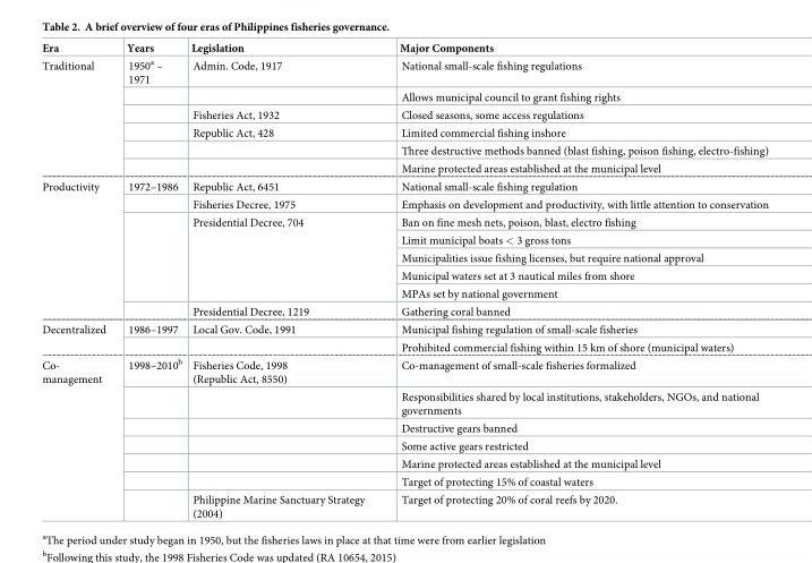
<table><thead><tr><td>Era</td><td>Years</td><td>Legislation</td><td>Major Components</td></tr></thead><tbody><tr><td rowspan="6">Traditional</td><td>1950<sup>a</sup> – 1971</td><td>Admin. Code, 1917</td><td>National small-scale fishing regulations</td></tr><tr><td></td><td></td><td>Allows municipal council to grant fishing rights</td></tr><tr><td></td><td>Fisheries Act, 1932</td><td>Closed seasons, some access regulations</td></tr><tr><td></td><td>Republic Act, 428</td><td>Limited commercial fishing inshore</td></tr><tr><td></td><td></td><td>Three destructive methods banned (blast fishing, poison fishing, electro-fishing)</td></tr><tr><td></td><td></td><td>Marine protected areas established at the municipal level</td></tr><tr><td rowspan="8">Productivity</td><td>1972–1986</td><td>Republic Act, 6451</td><td>National small-scale fishing regulation</td></tr><tr><td></td><td>Fisheries Decree, 1975</td><td>Emphasis on development and productivity, with little attention to conservation</td></tr><tr><td rowspan="5"></td><td rowspan="5">Presidential Decree, 704</td><td>Ban on fine mesh nets, poison, blast, electro fishing</td></tr><tr><td>Limit municipal boats &lt; 3 gross tons</td></tr><tr><td>Municipalities issue fishing licenses, but require national approval</td></tr><tr><td>Municipal waters set at 3 nautical miles from shore</td></tr><tr><td>MPAs set by national government</td></tr><tr><td></td><td>Presidential Decree, 1219</td><td>Gathering coral banned</td></tr><tr><td rowspan="2">Decentralized</td><td>1986–1997</td><td>Local Gov. Code, 1991</td><td>Municipal fishing regulation of small-scale fisheries</td></tr><tr><td></td><td></td><td>Prohibited commercial fishing within 15 km of shore (municipal waters)</td></tr><tr><td rowspan="7">Co- management</td><td>1998–2010<sup>b</sup></td><td>Fisheries Code, 1998 (Republic Act, 8550)</td><td>Co-management of small-scale fisheries formalized</td></tr><tr><td></td><td></td><td>Responsibilities shared by local institutions, stakeholders, NGOs, and national governments</td></tr><tr><td></td><td></td><td>Destructive gears banned</td></tr><tr><td></td><td></td><td>Some active gears restricted</td></tr><tr><td></td><td></td><td>Marine protected areas established at the municipal level</td></tr><tr><td></td><td></td><td>Target of protecting 15% of coastal waters</td></tr><tr><td></td><td>Philippine Marine Sanctuary Strategy (2004)</td><td>Target of protecting 20% of coral reefs by 2020.</td></tr></tbody></table>